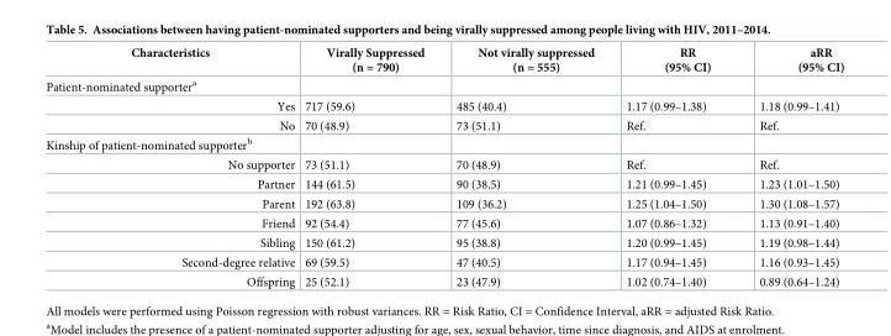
<table><thead><tr><td>Characteristics</td><td>Virally Suppressed (n = 790)</td><td>Not virally suppressed (n = 555)</td><td>RR (95% CI)</td><td>aRR (95% CI)</td></tr></thead><tbody><tr><td colspan="5">Patient-nominated supporter<sup>a</sup></td></tr><tr><td>Yes</td><td>717 (59.6)</td><td>485 (40.4)</td><td>1.17 (0.99–1.38)</td><td>1.18 (0.99–1.41)</td></tr><tr><td>No</td><td>70 (48.9)</td><td>73 (51.1)</td><td>Ref.</td><td>Ref.</td></tr><tr><td colspan="5">Kinship of patient-nominated supporter<sup>b</sup></td></tr><tr><td>No supporter</td><td>73 (51.1)</td><td>70 (48.9)</td><td>Ref.</td><td>Ref.</td></tr><tr><td>Partner</td><td>144 (61.5)</td><td>90 (38.5)</td><td>1.21 (0.99–1.45)</td><td>1.23 (1.01–1.50)</td></tr><tr><td>Parent</td><td>192 (63.8)</td><td>109 (36.2)</td><td>1.25 (1.04–1.50)</td><td>1.30 (1.08–1.57)</td></tr><tr><td>Friend</td><td>92 (54.4)</td><td>77 (45.6)</td><td>1.07 (0.86–1.32)</td><td>1.13 (0.91–1.40)</td></tr><tr><td>Sibling</td><td>150 (61.2)</td><td>95 (38.8)</td><td>1.20 (0.99–1.45)</td><td>1.19 (0.98–1.44)</td></tr><tr><td>Second-degree relative</td><td>69 (59.5)</td><td>47 (40.5)</td><td>1.17 (0.94–1.45)</td><td>1.16 (0.93–1.45)</td></tr><tr><td>Offspring</td><td>25 (52.1)</td><td>23 (47.9)</td><td>1.02 (0.74–1.40)</td><td>0.89 (0.64–1.24)</td></tr></tbody></table>